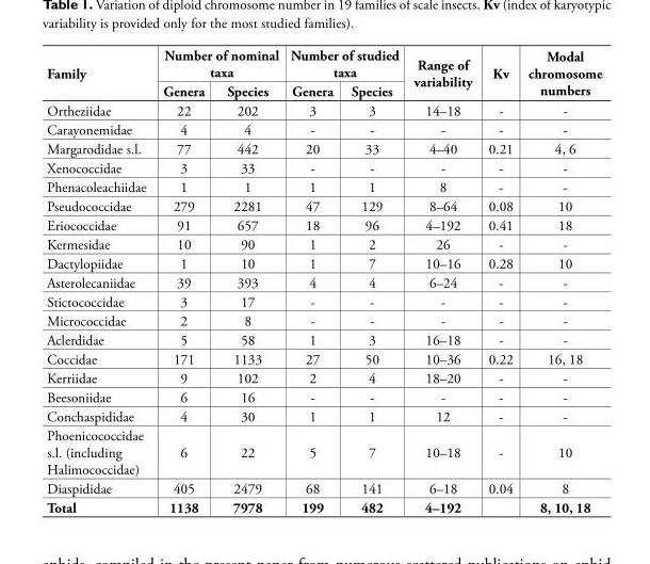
<table><thead><tr><td rowspan="2">Family</td><td colspan="2">Number of nominal taxa</td><td colspan="2">Number of studied taxa</td><td rowspan="2">Range of variability</td><td rowspan="2">Kv</td><td rowspan="2">Modal chromosome numbers</td></tr><tr><td>Genera</td><td>Species</td><td>Genera</td><td>Species</td></tr></thead><tbody><tr><td>Ortheziidae</td><td>22</td><td>202</td><td>3</td><td>3</td><td>14–18</td><td>-</td><td>-</td></tr><tr><td>Carayonemidae</td><td>4</td><td>4</td><td>-</td><td>-</td><td>-</td><td>-</td><td>-</td></tr><tr><td>Margarodidae s.l.</td><td>77</td><td>442</td><td>20</td><td>33</td><td>4–40</td><td>0.21</td><td>4, 6</td></tr><tr><td>Xenococcidae</td><td>3</td><td>33</td><td>-</td><td>-</td><td>-</td><td>-</td><td>-</td></tr><tr><td>Phenacoleachiidae</td><td>1</td><td>1</td><td>1</td><td>1</td><td>8</td><td>-</td><td>-</td></tr><tr><td>Pseudococcidae</td><td>279</td><td>2281</td><td>47</td><td>129</td><td>8–64</td><td>0.08</td><td>10</td></tr><tr><td>Eriococcidae</td><td>91</td><td>657</td><td>18</td><td>96</td><td>4–192</td><td>0.41</td><td>18</td></tr><tr><td>Kermesidae</td><td>10</td><td>90</td><td>1</td><td>2</td><td>26</td><td>-</td><td>-</td></tr><tr><td>Dactylopiidae</td><td>1</td><td>10</td><td>1</td><td>7</td><td>10–16</td><td>0.28</td><td>10</td></tr><tr><td>Asterolecaniidae</td><td>39</td><td>393</td><td>4</td><td>4</td><td>6–24</td><td>-</td><td>-</td></tr><tr><td>Stictococcidae</td><td>3</td><td>17</td><td>-</td><td>-</td><td>-</td><td>-</td><td>-</td></tr><tr><td>Micrococcidae</td><td>2</td><td>8</td><td>-</td><td>-</td><td>-</td><td>-</td><td>-</td></tr><tr><td>Aclerdidae</td><td>5</td><td>58</td><td>1</td><td>3</td><td>16–18</td><td>-</td><td>-</td></tr><tr><td>Coccidae</td><td>171</td><td>1133</td><td>27</td><td>50</td><td>10–36</td><td>0.22</td><td>16, 18</td></tr><tr><td>Kerriidae</td><td>9</td><td>102</td><td>2</td><td>4</td><td>18–20</td><td>-</td><td>-</td></tr><tr><td>Beesoniidae</td><td>6</td><td>16</td><td>-</td><td>-</td><td>-</td><td>-</td><td>-</td></tr><tr><td>Conchaspididae</td><td>4</td><td>30</td><td>1</td><td>1</td><td>12</td><td>-</td><td>-</td></tr><tr><td>Phoenicococcidae s.l. (including Halimococcidae)</td><td>6</td><td>22</td><td>5</td><td>7</td><td>10–18</td><td>-</td><td>10</td></tr><tr><td>Diaspididae</td><td>405</td><td>2479</td><td>68</td><td>141</td><td>6–18</td><td>0.04</td><td>8</td></tr><tr><td>Total</td><td>1138</td><td>7978</td><td>199</td><td>482</td><td>4–192</td><td></td><td>8, 10, 18</td></tr></tbody></table>